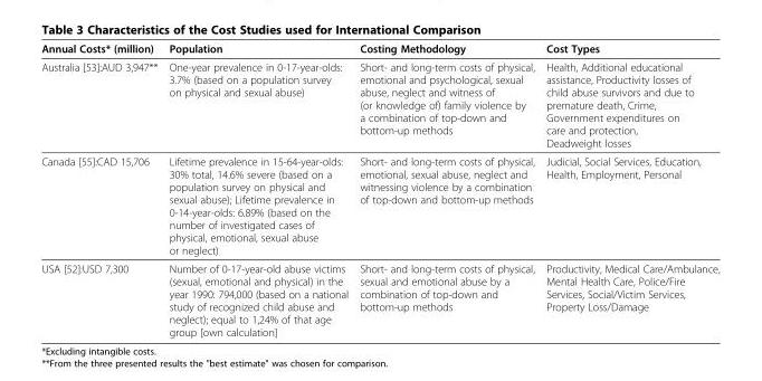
<table><thead><tr><td>Annual Costs* (million)</td><td>Population</td><td>Costing Methodology</td><td>Cost Types</td></tr></thead><tbody><tr><td>Australia [53]:AUD 3,947**</td><td>One-year prevalence in 0-17-year-olds: 3.7% (based on a population survey on physical and sexual abuse)</td><td>Short- and long-term costs of physical, emotional and psychological, sexual abuse, neglect and witness of (or knowledge of) family violence by a combination of top-down and bottom-up methods</td><td>Health, Additional educational assistance, Productivity losses of child abuse survivors and due to premature death, Crime, Government expenditures on care and protection, Deadweight losses</td></tr><tr><td>Canada [55]:CAD 15,706</td><td>Lifetime prevalence in 15-64-year-olds: 30% total, 14.6% severe (based on a population survey on physical and sexual abuse); Lifetime prevalence in 0-14-year-olds: 6.89% (based on the number of investigated cases of physical, emotional, sexual abuse or neglect)</td><td>Short- and long-term costs of physical, emotional, sexual abuse, neglect and witnessing violence by a combination of top-down and bottom-up methods</td><td>Judicial, Social Services, Education, Health, Employment, Personal</td></tr><tr><td>USA [52]:USD 7,300</td><td>Number of 0-17-year-old abuse victims (sexual, emotional and physical) in the year 1990: 794,000 (based on a national study of recognized child abuse and neglect); equal to 1,24% of that age group [own calculation]</td><td>Short- and long-term costs of physical, sexual and emotional abuse by a combination of top-down and bottom-up methods</td><td>Productivity, Medical Care/Ambulance, Mental Health Care, Police/Fire Services, Social/Victim Services, Property Loss/Damage</td></tr></tbody></table>